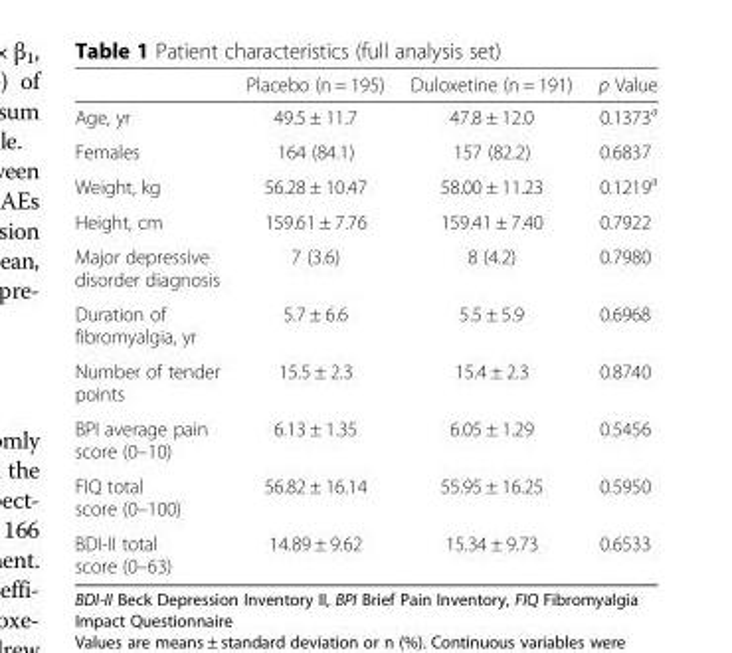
<table><thead><tr><td></td><td>Placebo (n = 195)</td><td>Duloxetine (n = 191)</td><td>p Value</td></tr></thead><tbody><tr><td>Age, yr</td><td>49.5 ± 11.7</td><td>47.8 ± 12.0</td><td>0.1373<sup>a</sup></td></tr><tr><td>Females</td><td>164 (84.1)</td><td>157 (82.2)</td><td>0.6837</td></tr><tr><td>Weight, kg</td><td>56.28 ± 10.47</td><td>58.00 ± 11.23</td><td>0.1219<sup>a</sup></td></tr><tr><td>Height, cm</td><td>159.61 ± 7.76</td><td>159.41 ± 7.40</td><td>0.7922</td></tr><tr><td>Major depressive disorder diagnosis</td><td>7 (3.6)</td><td>8 (4.2)</td><td>0.7980</td></tr><tr><td>Duration of fibromyalgia, yr</td><td>5.7 ± 6.6</td><td>5.5 ± 5.9</td><td>0.6968</td></tr><tr><td>Number of tender points</td><td>15.5 ± 2.3</td><td>15.4 ± 2.3</td><td>0.8740</td></tr><tr><td>BPI average pain score (0–10)</td><td>6.13 ± 1.35</td><td>6.05 ± 1.29</td><td>0.5456</td></tr><tr><td>FIQ total score (0–100)</td><td>56.82 ± 16.14</td><td>55.95 ± 16.25</td><td>0.5950</td></tr><tr><td>BDI-II total score (0–63)</td><td>14.89 ± 9.62</td><td>15.34 ± 9.73</td><td>0.6533</td></tr></tbody></table>